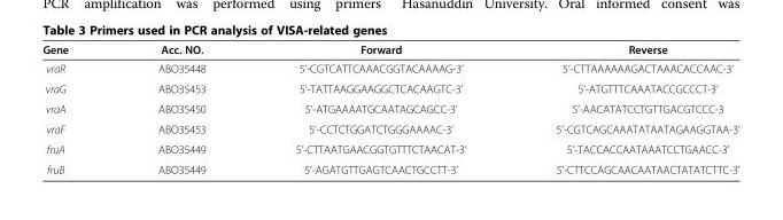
<table><thead><tr><td>Gene</td><td>Acc. NO.</td><td>Forward</td><td>Reverse</td></tr></thead><tbody><tr><td>vraR</td><td>ABO35448</td><td>5’-CGTCATTCAAACGGTACAAAAG-3’</td><td>5’-CTTAAAAAAGACTAAACACCAAC-3’</td></tr><tr><td>vraG</td><td>ABO35453</td><td>5’-TATTAAGGAAGGCTCACAAGTC-3’</td><td>5’-ATGTTTCAAATACCGCCCT-3’</td></tr><tr><td>vraA</td><td>ABO35450</td><td>5’-ATGAAAATGCAATAGCAGCC-3’</td><td>5’-AACATATCCTGTTGACGTCCC-3</td></tr><tr><td>vraF</td><td>ABO35453</td><td>5’-CCTCTGGATCTGGGAAAAC-3’</td><td>5’-CGTCAGCAAATATAATAGAAGGTAA-3’</td></tr><tr><td>fruA</td><td>ABO35449</td><td>5’-CTTAATGAACGGTGTTTCTAACAT-3’</td><td>5’-TACCACCAATAAATCCTGAACC-3’</td></tr><tr><td>fruB</td><td>ABO35449</td><td>5’-AGATGTTGAGTCAACTGCCTT-3’</td><td>5’-CTTCCAGCAACAATAACTATATCTTC-3’</td></tr></tbody></table>